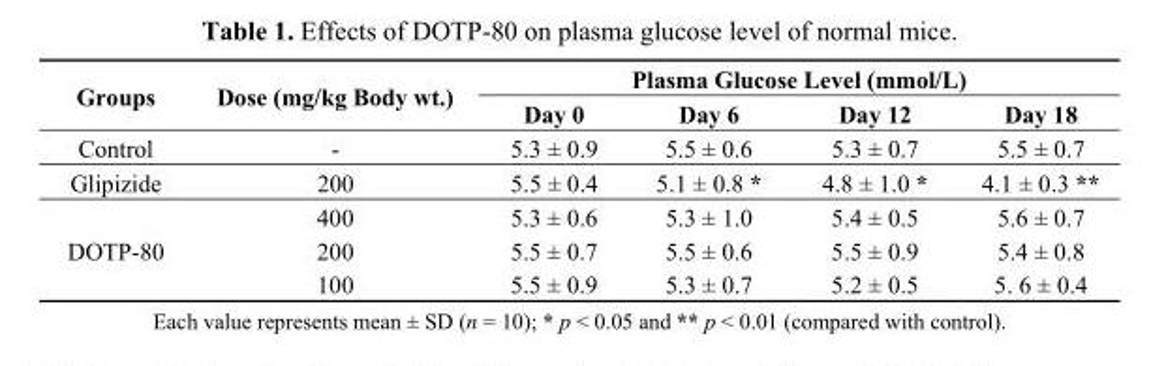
<table><thead><tr><td rowspan="2">Groups</td><td rowspan="2">Dose (mg/kg Body wt.)</td><td colspan="4">Plasma Glucose Level (mmol/L)</td></tr><tr><td>Day 0</td><td>Day 6</td><td>Day 12</td><td>Day 18</td></tr></thead><tbody><tr><td>Control</td><td>-</td><td>5.3 ± 0.9</td><td>5.5 ± 0.6</td><td>5.3 ± 0.7</td><td>5.5 ± 0.7</td></tr><tr><td>Glipizide</td><td>200</td><td>5.5 ± 0.4</td><td>5.1 ± 0.8 *</td><td>4.8 ± 1.0 *</td><td>4.1 ± 0.3 **</td></tr><tr><td rowspan="3">DOTP-80</td><td>400</td><td>5.3 ± 0.6</td><td>5.3 ± 1.0</td><td>5.4 ± 0.5</td><td>5.6 ± 0.7</td></tr><tr><td>200</td><td>5.5 ± 0.7</td><td>5.5 ± 0.6</td><td>5.5 ± 0.9</td><td>5.4 ± 0.8</td></tr><tr><td>100</td><td>5.5 ± 0.9</td><td>5.3 ± 0.7</td><td>5.2 ± 0.5</td><td>5. 6 ± 0.4</td></tr></tbody></table>